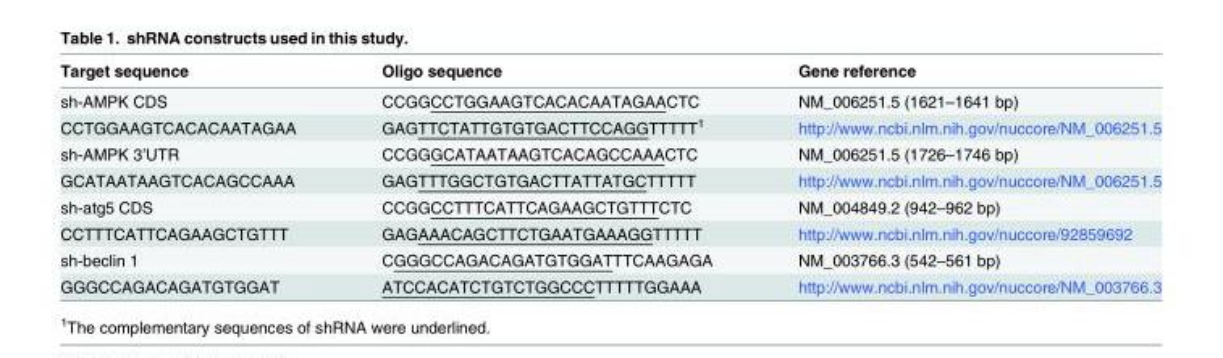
<table><thead><tr><td>Target sequence</td><td>Oligo sequence</td><td>Gene reference</td></tr></thead><tbody><tr><td>sh-AMPK CDS</td><td>CCGGCCTGGAAGTCACACAATAGAACTC</td><td>NM_006251.5 (1621–1641 bp)</td></tr><tr><td>CCTGGAAGTCACACAATAGAA</td><td>GAGTTCTATTGTGTGACTTCCAGGTTTTT<sup>1</sup></td><td>http://www.ncbi.nlm.nih.gov/nuccore/NM_006251.5</td></tr><tr><td>sh-AMPK 3’UTR</td><td>CCGGGCATAATAAGTCACAGCCAAACTC</td><td>NM_006251.5 (1726–1746 bp)</td></tr><tr><td>GCATAATAAGTCACAGCCAAA</td><td>GAGTTTGGCTGTGACTTATTATGCTTTTT</td><td>http://www.ncbi.nlm.nih.gov/nuccore/NM_006251.5</td></tr><tr><td>sh-atg5 CDS</td><td>CCGGCCTTTCATTCAGAAGCTGTTTCTC</td><td>NM_004849.2 (942–962 bp)</td></tr><tr><td>CCTTTCATTCAGAAGCTGTTT</td><td>GAGAAACAGCTTCTGAATGAAAGGTTTTT</td><td>http://www.ncbi.nlm.nih.gov/nuccore/92859692</td></tr><tr><td>sh-beclin 1</td><td>CGGGCCAGACAGATGTGGATTTCAAGAGA</td><td>NM_003766.3 (542–561 bp)</td></tr><tr><td>GGGCCAGACAGATGTGGAT</td><td>ATCCACATCTGTCTGGCCCTTTTTGGAAA</td><td>http://www.ncbi.nlm.nih.gov/nuccore/NM_003766.3</td></tr></tbody></table>